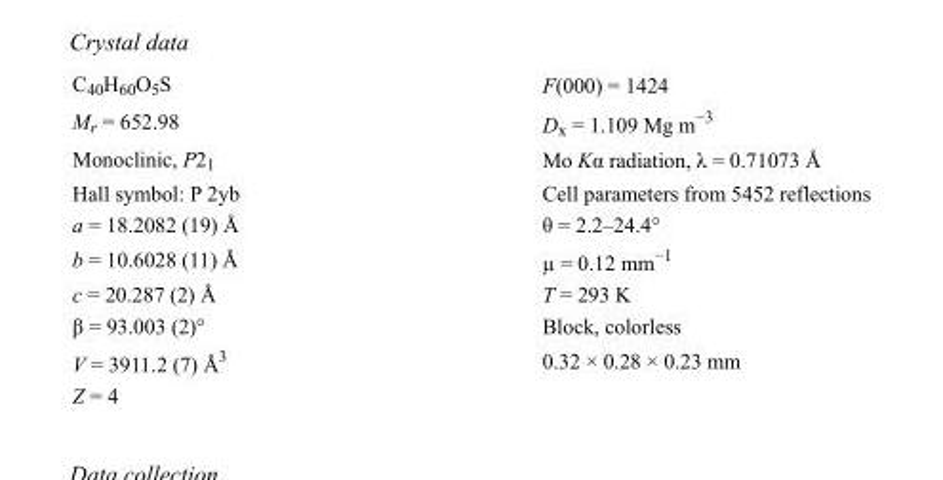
<table><tbody><tr><td>C<sub>40</sub>H<sub>60</sub>O<sub>5</sub>S</td><td>F(000) = 1424</td></tr><tr><td>M<sub>r</sub> = 652.98</td><td>D<sub>x</sub> = 1.109 Mg m<sup>−3</sup></td></tr><tr><td>Monoclinic, P2<sub>1</sub></td><td>Mo Kα radiation, λ = 0.71073 Å</td></tr><tr><td>Hall symbol: P 2yb</td><td>Cell parameters from 5452 reflections</td></tr><tr><td>a = 18.2082 (19) Å</td><td>θ = 2.2–24.4°</td></tr><tr><td>b = 10.6028 (11) Å</td><td>µ = 0.12 mm<sup>−1</sup></td></tr><tr><td>c = 20.287 (2) Å</td><td>T = 293 K</td></tr><tr><td>β = 93.003 (2)°</td><td>Block, colorless</td></tr><tr><td>V = 3911.2 (7) Å<sup>3</sup></td><td>0.32 × 0.28 × 0.23 mm</td></tr><tr><td>Z = 4</td><td></td></tr></tbody></table>